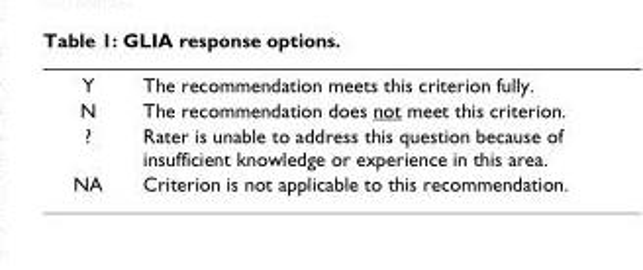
<table><tbody><tr><td>Y</td><td>The recommendation meets this criterion fully.</td></tr><tr><td>N</td><td>The recommendation does not meet this criterion.</td></tr><tr><td>?</td><td>Rater is unable to address this question because of insufficient knowledge or experience in this area.</td></tr><tr><td>NA</td><td>Criterion is not applicable to this recommendation.</td></tr></tbody></table>